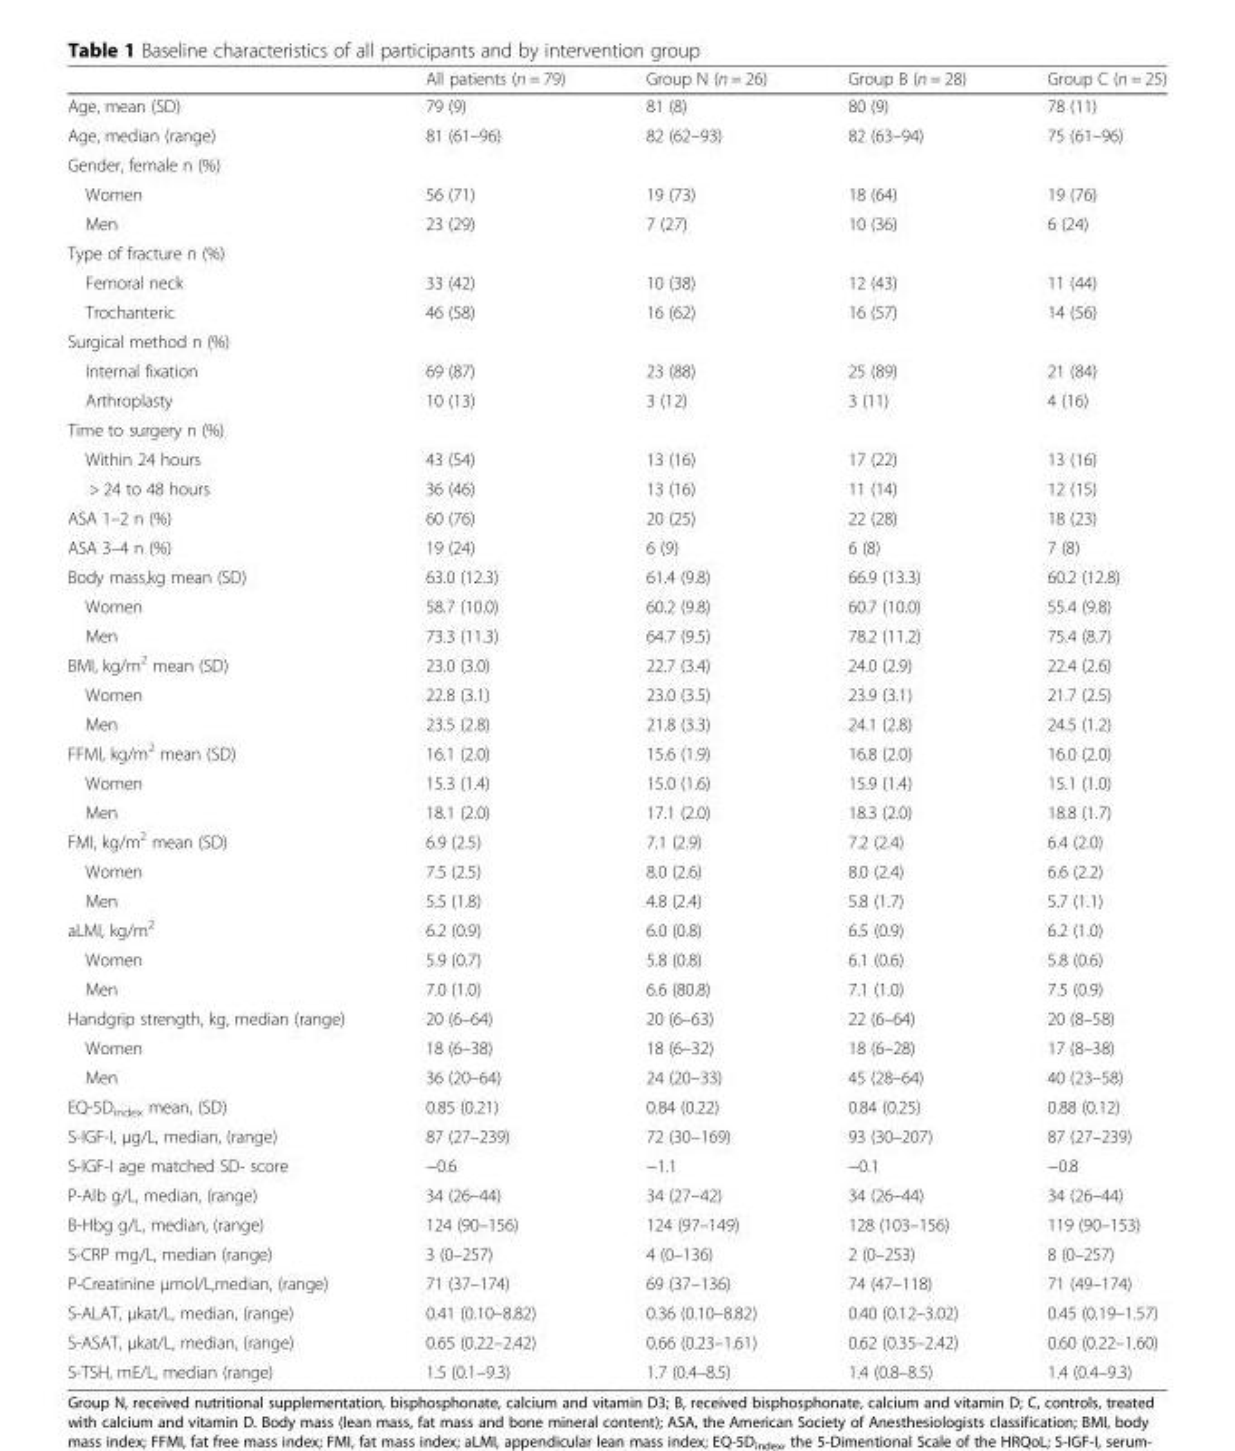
<table><thead><tr><td></td><td>All patients (n = 79)</td><td>Group N (n = 26)</td><td>Group B (n = 28)</td><td>Group C (n = 25)</td></tr></thead><tbody><tr><td>Age, mean (SD)</td><td>79 (9)</td><td>81 (8)</td><td>80 (9)</td><td>78 (11)</td></tr><tr><td>Age, median (range)</td><td>81 (61–96)</td><td>82 (62–93)</td><td>82 (63–94)</td><td>75 (61–96)</td></tr><tr><td colspan="5">Gender, female n (%)</td></tr><tr><td>Women</td><td>56 (71)</td><td>19 (73)</td><td>18 (64)</td><td>19 (76)</td></tr><tr><td>Men</td><td>23 (29)</td><td>7 (27)</td><td>10 (36)</td><td>6 (24)</td></tr><tr><td colspan="5">Type of fracture n (%)</td></tr><tr><td>Femoral neck</td><td>33 (42)</td><td>10 (38)</td><td>12 (43)</td><td>11 (44)</td></tr><tr><td>Trochanteric</td><td>46 (58)</td><td>16 (62)</td><td>16 (57)</td><td>14 (56)</td></tr><tr><td colspan="5">Surgical method n (%)</td></tr><tr><td>Internal fixation</td><td>69 (87)</td><td>23 (88)</td><td>25 (89)</td><td>21 (84)</td></tr><tr><td>Arthroplasty</td><td>10 (13)</td><td>3 (12)</td><td>3 (11)</td><td>4 (16)</td></tr><tr><td colspan="5">Time to surgery n (%)</td></tr><tr><td>Within 24 hours</td><td>43 (54)</td><td>13 (16)</td><td>17 (22)</td><td>13 (16)</td></tr><tr><td>&gt; 24 to 48 hours</td><td>36 (46)</td><td>13 (16)</td><td>11 (14)</td><td>12 (15)</td></tr><tr><td>ASA 1–2 n (%)</td><td>60 (76)</td><td>20 (25)</td><td>22 (28)</td><td>18 (23)</td></tr><tr><td>ASA 3–4 n (%)</td><td>19 (24)</td><td>6 (9)</td><td>6 (8)</td><td>7 (8)</td></tr><tr><td>Body mass,kg mean (SD)</td><td>63.0 (12.3)</td><td>61.4 (9.8)</td><td>66.9 (13.3)</td><td>60.2 (12.8)</td></tr><tr><td>Women</td><td>58.7 (10.0)</td><td>60.2 (9.8)</td><td>60.7 (10.0)</td><td>55.4 (9.8)</td></tr><tr><td>Men</td><td>73.3 (11.3)</td><td>64.7 (9.5)</td><td>78.2 (11.2)</td><td>75.4 (8.7)</td></tr><tr><td>BMI, kg/m<sup>2</sup> mean (SD)</td><td>23.0 (3.0)</td><td>22.7 (3.4)</td><td>24.0 (2.9)</td><td>22.4 (2.6)</td></tr><tr><td>Women</td><td>22.8 (3.1)</td><td>23.0 (3.5)</td><td>23.9 (3.1)</td><td>21.7 (2.5)</td></tr><tr><td>Men</td><td>23.5 (2.8)</td><td>21.8 (3.3)</td><td>24.1 (2.8)</td><td>24.5 (1.2)</td></tr><tr><td>FFMI, kg/m<sup>2</sup> mean (SD)</td><td>16.1 (2.0)</td><td>15.6 (1.9)</td><td>16.8 (2.0)</td><td>16.0 (2.0)</td></tr><tr><td>Women</td><td>15.3 (1.4)</td><td>15.0 (1.6)</td><td>15.9 (1.4)</td><td>15.1 (1.0)</td></tr><tr><td>Men</td><td>18.1 (2.0)</td><td>17.1 (2.0)</td><td>18.3 (2.0)</td><td>18.8 (1.7)</td></tr><tr><td>FMI, kg/m<sup>2</sup> mean (SD)</td><td>6.9 (2.5)</td><td>7.1 (2.9)</td><td>7.2 (2.4)</td><td>6.4 (2.0)</td></tr><tr><td>Women</td><td>7.5 (2.5)</td><td>8.0 (2.6)</td><td>8.0 (2.4)</td><td>6.6 (2.2)</td></tr><tr><td>Men</td><td>5.5 (1.8)</td><td>4.8 (2.4)</td><td>5.8 (1.7)</td><td>5.7 (1.1)</td></tr><tr><td>aLMI, kg/m<sup>2</sup></td><td>6.2 (0.9)</td><td>6.0 (0.8)</td><td>6.5 (0.9)</td><td>6.2 (1.0)</td></tr><tr><td>Women</td><td>5.9 (0.7)</td><td>5.8 (0.8)</td><td>6.1 (0.6)</td><td>5.8 (0.6)</td></tr><tr><td>Men</td><td>7.0 (1.0)</td><td>6.6 (80.8)</td><td>7.1 (1.0)</td><td>7.5 (0.9)</td></tr><tr><td>Handgrip strength, kg, median (range)</td><td>20 (6–64)</td><td>20 (6–63)</td><td>22 (6–64)</td><td>20 (8–58)</td></tr><tr><td>Women</td><td>18 (6–38)</td><td>18 (6–32)</td><td>18 (6–28)</td><td>17 (8–38)</td></tr><tr><td>Men</td><td>36 (20–64)</td><td>24 (20–33)</td><td>45 (28–64)</td><td>40 (23–58)</td></tr><tr><td>EQ-5D<sub>index</sub> mean, (SD)</td><td>0.85 (0.21)</td><td>0.84 (0.22)</td><td>0.84 (0.25)</td><td>0.88 (0.12)</td></tr><tr><td>S-IGF-I, μg/L, median, (range)</td><td>87 (27–239)</td><td>72 (30–169)</td><td>93 (30–207)</td><td>87 (27–239)</td></tr><tr><td>S-IGF-I age matched SD- score</td><td>−0.6</td><td>−1.1</td><td>−0.1</td><td>−0.8</td></tr><tr><td>P-Alb g/L, median, (range)</td><td>34 (26–44)</td><td>34 (27–42)</td><td>34 (26–44)</td><td>34 (26–44)</td></tr><tr><td>B-Hbg g/L, median, (range)</td><td>124 (90–156)</td><td>124 (97–149)</td><td>128 (103–156)</td><td>119 (90–153)</td></tr><tr><td>S-CRP mg/L, median (range)</td><td>3 (0–257)</td><td>4 (0–136)</td><td>2 (0–253)</td><td>8 (0–257)</td></tr><tr><td>P-Creatinine μmol/L,median, (range)</td><td>71 (37–174)</td><td>69 (37–136)</td><td>74 (47–118)</td><td>71 (49–174)</td></tr><tr><td>S-ALAT, μkat/L, median, (range)</td><td>0.41 (0.10–8.82)</td><td>0.36 (0.10–8.82)</td><td>0.40 (0.12–3.02)</td><td>0.45 (0.19–1.57)</td></tr><tr><td>S-ASAT, μkat/L, median, (range)</td><td>0.65 (0.22–2.42)</td><td>0.66 (0.23–1.61)</td><td>0.62 (0.35–2.42)</td><td>0.60 (0.22–1.60)</td></tr><tr><td>S-TSH, mE/L, median (range)</td><td>1.5 (0.1–9.3)</td><td>1.7 (0.4–8.5)</td><td>1.4 (0.8–8.5)</td><td>1.4 (0.4–9.3)</td></tr></tbody></table>